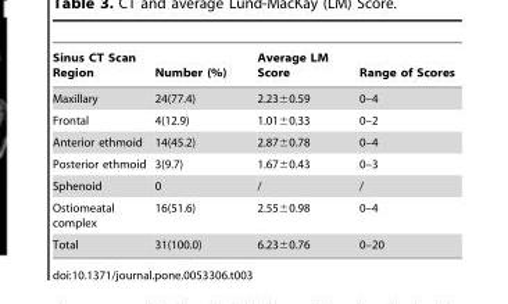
<table><thead><tr><td>Sinus CT Scan Region</td><td>Number (%)</td><td>Average LM Score</td><td>Range of Scores</td></tr></thead><tbody><tr><td>Maxillary</td><td>24(77.4)</td><td>2.23±0.59</td><td>0–4</td></tr><tr><td>Frontal</td><td>4(12.9)</td><td>1.01±0.33</td><td>0–2</td></tr><tr><td>Anterior ethmoid</td><td>14(45.2)</td><td>2.87±0.78</td><td>0–4</td></tr><tr><td>Posterior ethmoid</td><td>3(9.7)</td><td>1.67±0.43</td><td>0–3</td></tr><tr><td>Sphenoid</td><td>0</td><td>/</td><td>/</td></tr><tr><td>Ostiomeatal complex</td><td>16(51.6)</td><td>2.55±0.98</td><td>0–4</td></tr><tr><td>Total</td><td>31(100.0)</td><td>6.23±0.76</td><td>0–20</td></tr></tbody></table>